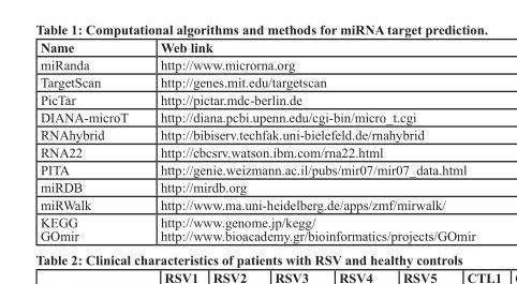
<table><thead><tr><td>Name</td><td>Web link</td></tr></thead><tbody><tr><td>miRanda</td><td>http://www.microrna.org</td></tr><tr><td>TargetScan</td><td>http://genes.mit.edu/targetscan</td></tr><tr><td>PicTar</td><td>http://pictar.mdc-berlin.de</td></tr><tr><td>DIANA-microT</td><td>http://diana.pcbi.upenn.edu/cgi-bin/micro_t.cgi</td></tr><tr><td>RNAhybrid</td><td>http://bibiserv.techfak.uni-bielefeld.de/rnahybrid</td></tr><tr><td>RNA22</td><td>http://cbcsrv.watson.ibm.com/rna22.html</td></tr><tr><td>PITA</td><td>http://genie.weizmann.ac.il/pubs/mir07/mir07_data.html</td></tr><tr><td>miRDB</td><td>http://mirdb.org</td></tr><tr><td>miRWalk</td><td>http://www.ma.uni-heidelberg.de/apps/zmf/mirwalk/</td></tr><tr><td>KEGG GOmir</td><td>http://www.genome.jp/kegg/ http://www.bioacademy.gr/bioinformatics/projects/GOmir</td></tr></tbody></table>